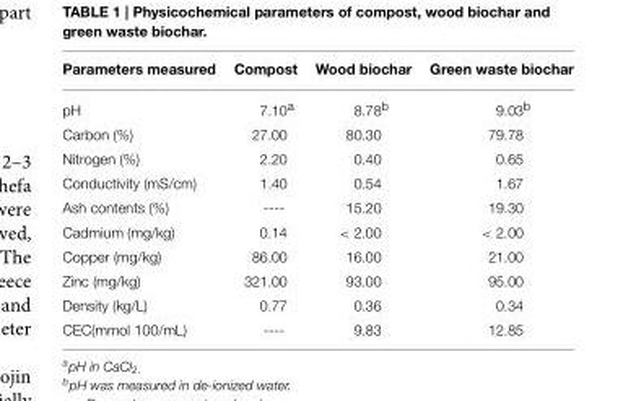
<table><thead><tr><td>Parameters measured</td><td>Compost</td><td>Wood biochar</td><td>Green waste biochar</td></tr></thead><tbody><tr><td>pH</td><td>7.10<sup>a</sup></td><td>8.78<sup>b</sup></td><td>9.03<sup>b</sup></td></tr><tr><td>Carbon (%)</td><td>27.00</td><td>80.30</td><td>79.78</td></tr><tr><td>Nitrogen (%)</td><td>2.20</td><td>0.40</td><td>0.65</td></tr><tr><td>Conductivity (mS/cm)</td><td>1.40</td><td>0.54</td><td>1.67</td></tr><tr><td>Ash contents (%)</td><td>----</td><td>15.20</td><td>19.30</td></tr><tr><td>Cadmium (mg/kg)</td><td>0.14</td><td>&lt; 2.00</td><td>&lt; 2.00</td></tr><tr><td>Copper (mg/kg)</td><td>86.00</td><td>16.00</td><td>21.00</td></tr><tr><td>Zinc (mg/kg)</td><td>321.00</td><td>93.00</td><td>95.00</td></tr><tr><td>Density (kg/L)</td><td>0.77</td><td>0.36</td><td>0.34</td></tr><tr><td>CEC(mmol 100/mL)</td><td>----</td><td>9.83</td><td>12.85</td></tr></tbody></table>